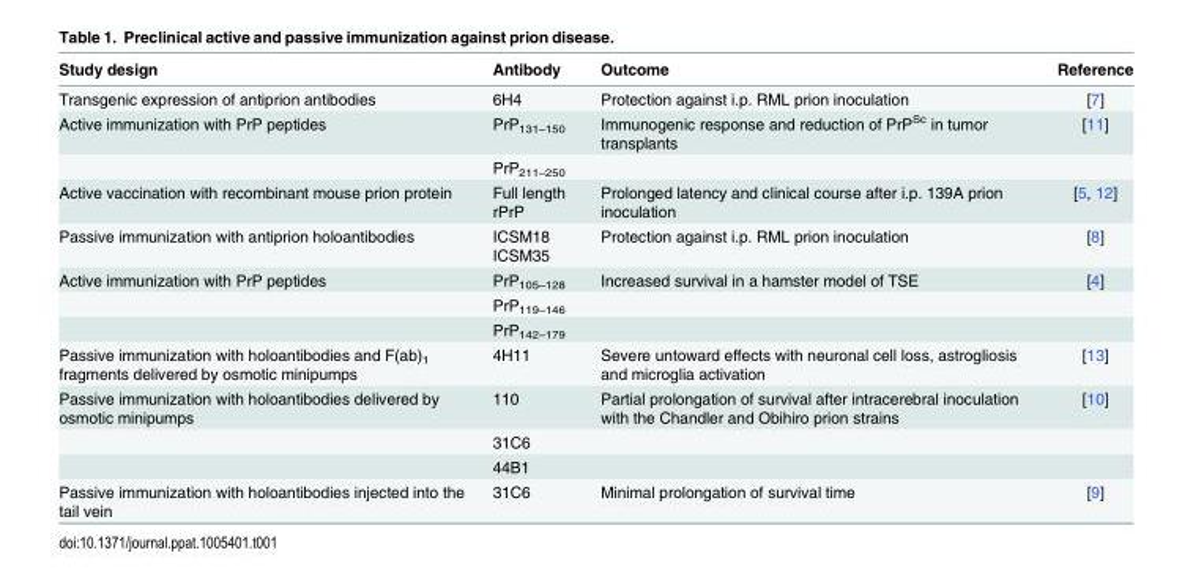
<table><thead><tr><td>Study design</td><td>Antibody</td><td>Outcome</td><td>Reference</td></tr></thead><tbody><tr><td>Transgenic expression of antiprion antibodies</td><td>6H4</td><td>Protection against i.p. RML prion inoculation</td><td>[7]</td></tr><tr><td rowspan="2">Active immunization with PrP peptides</td><td>PrP<sub>131–150</sub></td><td>Immunogenic response and reduction of PrP<sup>Sc</sup> in tumor transplants</td><td>[11]</td></tr><tr><td>PrP<sub>211–250</sub></td><td></td><td></td></tr><tr><td>Active vaccination with recombinant mouse prion protein</td><td>Full length rPrP</td><td>Prolonged latency and clinical course after i.p. 139A prion inoculation</td><td>[5, 12]</td></tr><tr><td>Passive immunization with antiprion holoantibodies</td><td>ICSM18 ICSM35</td><td>Protection against i.p. RML prion inoculation</td><td>[8]</td></tr><tr><td rowspan="3">Active immunization with PrP peptides</td><td>PrP<sub>105–128</sub></td><td>Increased survival in a hamster model of TSE</td><td>[4]</td></tr><tr><td>PrP<sub>119–146</sub></td><td></td><td></td></tr><tr><td>PrP<sub>142–179</sub></td><td></td><td></td></tr><tr><td>Passive immunization with holoantibodies and F(ab)<sub>1</sub> fragments delivered by osmotic minipumps</td><td>4H11</td><td>Severe untoward effects with neuronal cell loss, astrogliosis and microglia activation</td><td>[13]</td></tr><tr><td rowspan="3">Passive immunization with holoantibodies delivered by osmotic minipumps</td><td>110</td><td>Partial prolongation of survival after intracerebral inoculation with the Chandler and Obihiro prion strains</td><td>[10]</td></tr><tr><td>31C6</td><td></td><td></td></tr><tr><td>44B1</td><td></td><td></td></tr><tr><td>Passive immunization with holoantibodies injected into the tail vein</td><td>31C6</td><td>Minimal prolongation of survival time</td><td>[9]</td></tr></tbody></table>